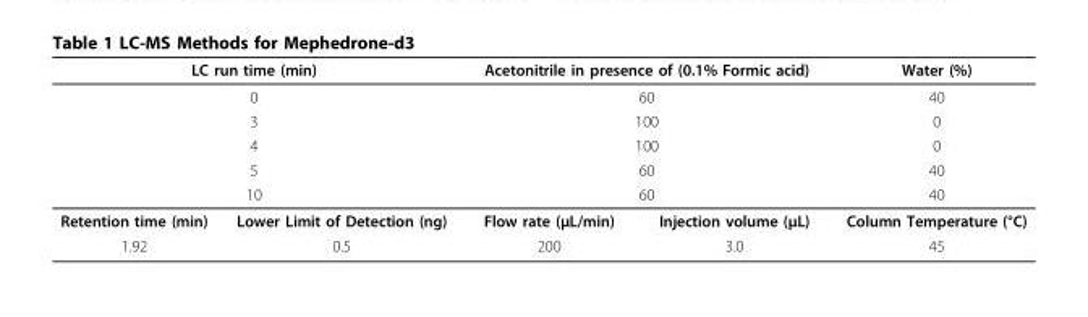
<table><thead><tr><td colspan="2">LC run time (min)</td><td colspan="2">Acetonitrile in presence of (0.1% Formic acid)</td><td>Water (%)</td></tr></thead><tbody><tr><td colspan="2">0</td><td colspan="2">60</td><td>40</td></tr><tr><td colspan="2">3</td><td colspan="2">100</td><td>0</td></tr><tr><td colspan="2">4</td><td colspan="2">100</td><td>0</td></tr><tr><td colspan="2">5</td><td colspan="2">60</td><td>40</td></tr><tr><td colspan="2">10</td><td colspan="2">60</td><td>40</td></tr><tr><td>Retention time (min)</td><td>Lower Limit of Detection (ng)</td><td>Flow rate (μL/min)</td><td>Injection volume (μL)</td><td>Column Temperature (°C)</td></tr><tr><td>1.92</td><td>0.5</td><td>200</td><td>3.0</td><td>45</td></tr></tbody></table>